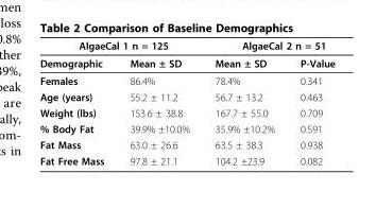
<table><thead><tr><td colspan="2">AlgaeCal 1 n = 125</td><td colspan="2">AlgaeCal 2 n = 51</td></tr><tr><td>Demographic</td><td>Mean ± SD</td><td>Mean ± SD</td><td>P-Value</td></tr></thead><tbody><tr><td>Females</td><td>86.4%</td><td>78.4%</td><td>0.341</td></tr><tr><td>Age (years)</td><td>55.2 ± 11.2</td><td>56.7 ± 13.2</td><td>0.463</td></tr><tr><td>Weight (lbs)</td><td>153.6 ± 38.8</td><td>167.7 ± 55.0</td><td>0.709</td></tr><tr><td>% Body Fat</td><td>39.9% ±10.0%</td><td>35.9% ±10.2%</td><td>0.591</td></tr><tr><td>Fat Mass</td><td>63.0 ± 26.6</td><td>63.5 ± 38.3</td><td>0.938</td></tr><tr><td>Fat Free Mass</td><td>97.8 ± 21.1</td><td>104.2 ±23.9</td><td>0.082</td></tr></tbody></table>